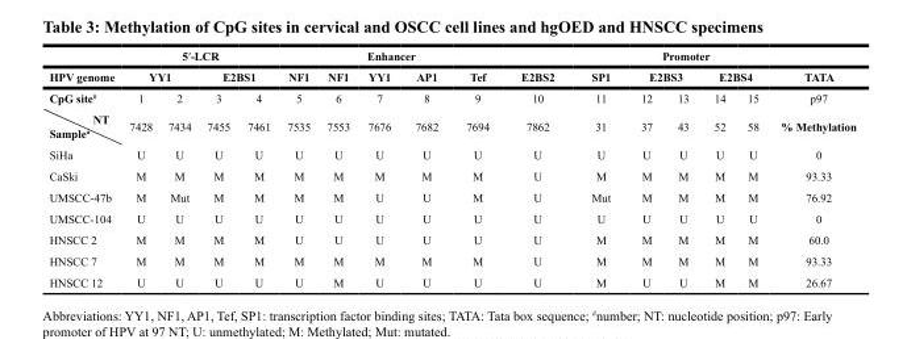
<table><thead><tr><td rowspan="3">HPV genome CpG site<sup>#</sup></td><td colspan="4">5′-LCR</td><td colspan="5">Enhancer</td><td colspan="7">Promoter</td></tr><tr><td colspan="2">YY1</td><td colspan="2">E2BS1</td><td rowspan="2">NF1 5</td><td rowspan="2">NF1 6</td><td rowspan="2">YY1 7</td><td rowspan="2">AP1 8</td><td rowspan="2">Tef 9</td><td rowspan="2">E2BS2 10</td><td rowspan="2">SP1 11</td><td colspan="2">E2BS3</td><td colspan="2">E2BS4</td><td rowspan="2">TATA p97</td></tr><tr><td>1</td><td>2</td><td>3</td><td>4</td><td>12</td><td>13</td><td>14</td><td>15</td></tr></thead><tbody><tr><td>NT Sample<sup>a</sup></td><td>7428</td><td>7434</td><td>7455</td><td>7461</td><td>7535</td><td>7553</td><td>7676</td><td>7682</td><td>7694</td><td>7862</td><td>31</td><td>37</td><td>43</td><td>52</td><td>58</td><td>% Methylation</td></tr><tr><td>SiHa</td><td>U</td><td>U</td><td>U</td><td>U</td><td>U</td><td>U</td><td>U</td><td>U</td><td>U</td><td>U</td><td>U</td><td>U</td><td>U</td><td>U</td><td>U</td><td>0</td></tr><tr><td>CaSki</td><td>M</td><td>M</td><td>M</td><td>M</td><td>M</td><td>M</td><td>M</td><td>M</td><td>M</td><td>U</td><td>M</td><td>M</td><td>M</td><td>M</td><td>M</td><td>93.33</td></tr><tr><td>UMSCC-47b</td><td>M</td><td>Mut</td><td>M</td><td>M</td><td>M</td><td>M</td><td>U</td><td>U</td><td>M</td><td>U</td><td>Mut</td><td>M</td><td>M</td><td>M</td><td>M</td><td>76.92</td></tr><tr><td>UMSCC-104</td><td>U</td><td>U</td><td>U</td><td>U</td><td>U</td><td>U</td><td>U</td><td>U</td><td>U</td><td>U</td><td>U</td><td>U</td><td>U</td><td>U</td><td>U</td><td>0</td></tr><tr><td>HNSCC 2</td><td>M</td><td>M</td><td>M</td><td>M</td><td>U</td><td>U</td><td>U</td><td>U</td><td>U</td><td>U</td><td>M</td><td>M</td><td>M</td><td>M</td><td>M</td><td>60.0</td></tr><tr><td>HNSCC 7</td><td>M</td><td>M</td><td>M</td><td>M</td><td>M</td><td>M</td><td>M</td><td>M</td><td>M</td><td>U</td><td>M</td><td>M</td><td>M</td><td>M</td><td>M</td><td>93.33</td></tr><tr><td>HNSCC 12</td><td>U</td><td>U</td><td>U</td><td>U</td><td>U</td><td>M</td><td>U</td><td>U</td><td>U</td><td>U</td><td>M</td><td>U</td><td>U</td><td>M</td><td>M</td><td>26.67</td></tr></tbody></table>